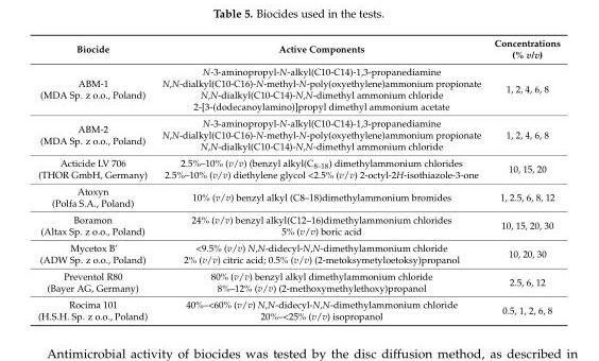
<table><thead><tr><td>Biocide</td><td>Active Components</td><td>Concentrations (% v/v)</td></tr></thead><tbody><tr><td>ABM-1 (MDA Sp. z o.o., Poland)</td><td>N-3-aminopropyl-N-alkyl(C10-C14)-1,3-propanediamine N,N-dialkyl(C10-C16)-N-methyl-N-poly(oxyethylene)ammonium propionate N,N-dialkyl(C10-C14)-N,N-dimethyl ammonium chloride 2-[3-(dodecanoylamino)]propyl dimethyl ammonium acetate</td><td>1, 2, 4, 6, 8</td></tr><tr><td>ABM-2 (MDA Sp. z o.o., Poland)</td><td>N-3-aminopropyl-N-alkyl(C10-C14)-1,3-propanediamine N,N-dialkyl(C10-C16)-N-methyl-N-poly(oxyethylene)ammonium propionate N,N-dialkyl(C10-C14)-N,N-dimethyl ammonium chloride</td><td>1, 2, 4, 6, 8</td></tr><tr><td>Acticide LV 706 (THOR GmbH, Germany)</td><td>2.5%–10% (v/v) (benzyl alkyl(C8–18) dimethylammonium chlorides 2.5%–10% (v/v) diethylene glycol &lt;2.5% (v/v) 2-octyl-2H-isothiazole-3-one</td><td>10, 15, 20</td></tr><tr><td>Atoxyn (Polfa S.A., Poland)</td><td>10% (v/v) benzyl alkyl (C8–18)dimethylammonium bromides</td><td>1, 2.5, 6, 8, 12</td></tr><tr><td>Boramon (Altax Sp. z o.o., Poland)</td><td>24% (v/v) benzyl alkyl(C12–16)dimethylammonium chlorides 5% (v/v) boric acid</td><td>10, 15, 20, 30</td></tr><tr><td>Mycetox B’ (ADW Sp. z o.o., Poland)</td><td>&lt;9.5% (v/v) N,N-didecyl-N,N-dimethylammonium chloride 2% (v/v) citric acid; 0.5% (v/v) (2-metoksymetyloetoksy)propanol</td><td>10, 20, 30</td></tr><tr><td>Preventol R80 (Bayer AG, Germany)</td><td>80% (v/v) benzyl alkyl dimethylammonium chloride 8%–12% (v/v) (2-methoxymethylethoxy)propanol</td><td>2.5, 6, 12</td></tr><tr><td>Rocima 101 (H.S.H. Sp. z o.o., Poland)</td><td>40%–&lt;60% (v/v) N,N-didecyl-N,N-dimethylammonium chloride 20%–&lt;25% (v/v) isopropanol</td><td>0.5, 1, 2, 6, 8</td></tr></tbody></table>